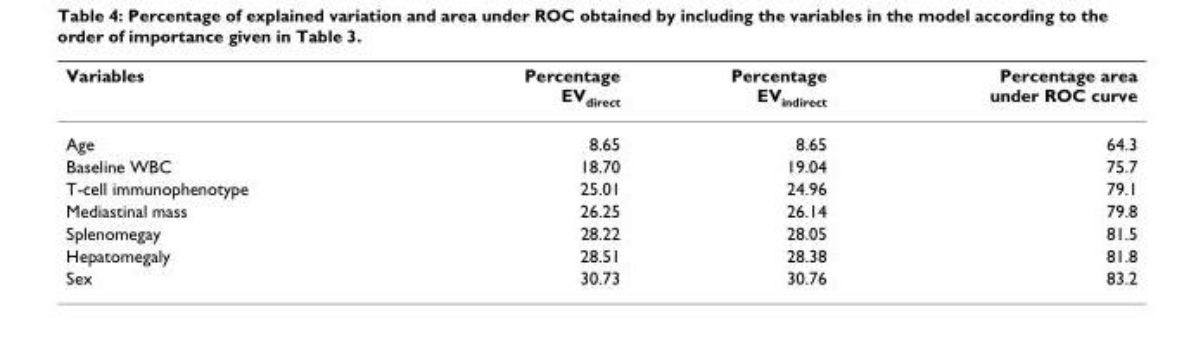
<table><thead><tr><td>Variables</td><td>Percentage EV<sub>direct</sub></td><td>Percentage EV<sub>indirect</sub></td><td>Percentage area under ROC curve</td></tr></thead><tbody><tr><td>Age</td><td>8.65</td><td>8.65</td><td>64.3</td></tr><tr><td>Baseline WBC</td><td>18.70</td><td>19.04</td><td>75.7</td></tr><tr><td>T-cell immunophenotype</td><td>25.01</td><td>24.96</td><td>79.1</td></tr><tr><td>Mediastinal mass</td><td>26.25</td><td>26.14</td><td>79.8</td></tr><tr><td>Splenomegay</td><td>28.22</td><td>28.05</td><td>81.5</td></tr><tr><td>Hepatomegaly</td><td>28.51</td><td>28.38</td><td>81.8</td></tr><tr><td>Sex</td><td>30.73</td><td>30.76</td><td>83.2</td></tr></tbody></table>